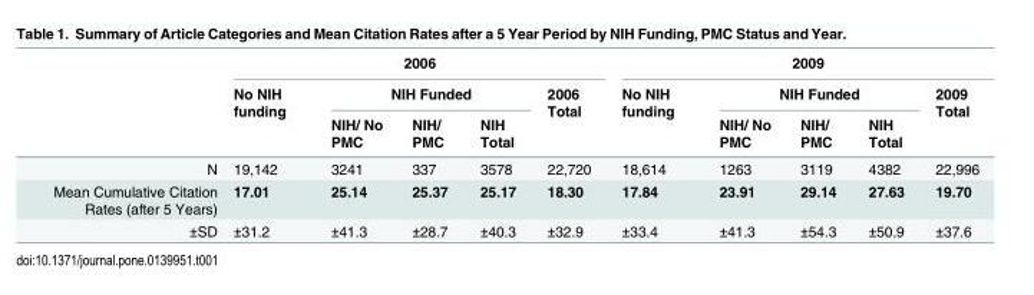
<table><thead><tr><td rowspan="3"></td><td colspan="5">2006</td><td colspan="5">2009</td></tr><tr><td rowspan="2">No NIH funding</td><td colspan="3">NIH Funded</td><td rowspan="2">2006 Total</td><td rowspan="2">No NIH funding</td><td colspan="3">NIH Funded</td><td rowspan="2">2009 Total</td></tr><tr><td>NIH/ No PMC</td><td>NIH/ PMC</td><td>NIH Total</td><td>NIH/ No PMC</td><td>NIH/ PMC</td><td>NIH Total</td></tr></thead><tbody><tr><td>N</td><td>19,142</td><td>3241</td><td>337</td><td>3578</td><td>22,720</td><td>18,614</td><td>1263</td><td>3119</td><td>4382</td><td>22,996</td></tr><tr><td>Mean Cumulative Citation Rates (after 5 Years)</td><td>17.01</td><td>25.14</td><td>25.37</td><td>25.17</td><td>18.30</td><td>17.84</td><td>23.91</td><td>29.14</td><td>27.63</td><td>19.70</td></tr><tr><td>±SD</td><td>±31.2</td><td>±41.3</td><td>±28.7</td><td>±40.3</td><td>±32.9</td><td>±33.4</td><td>±41.3</td><td>±54.3</td><td>±50.9</td><td>±37.6</td></tr></tbody></table>